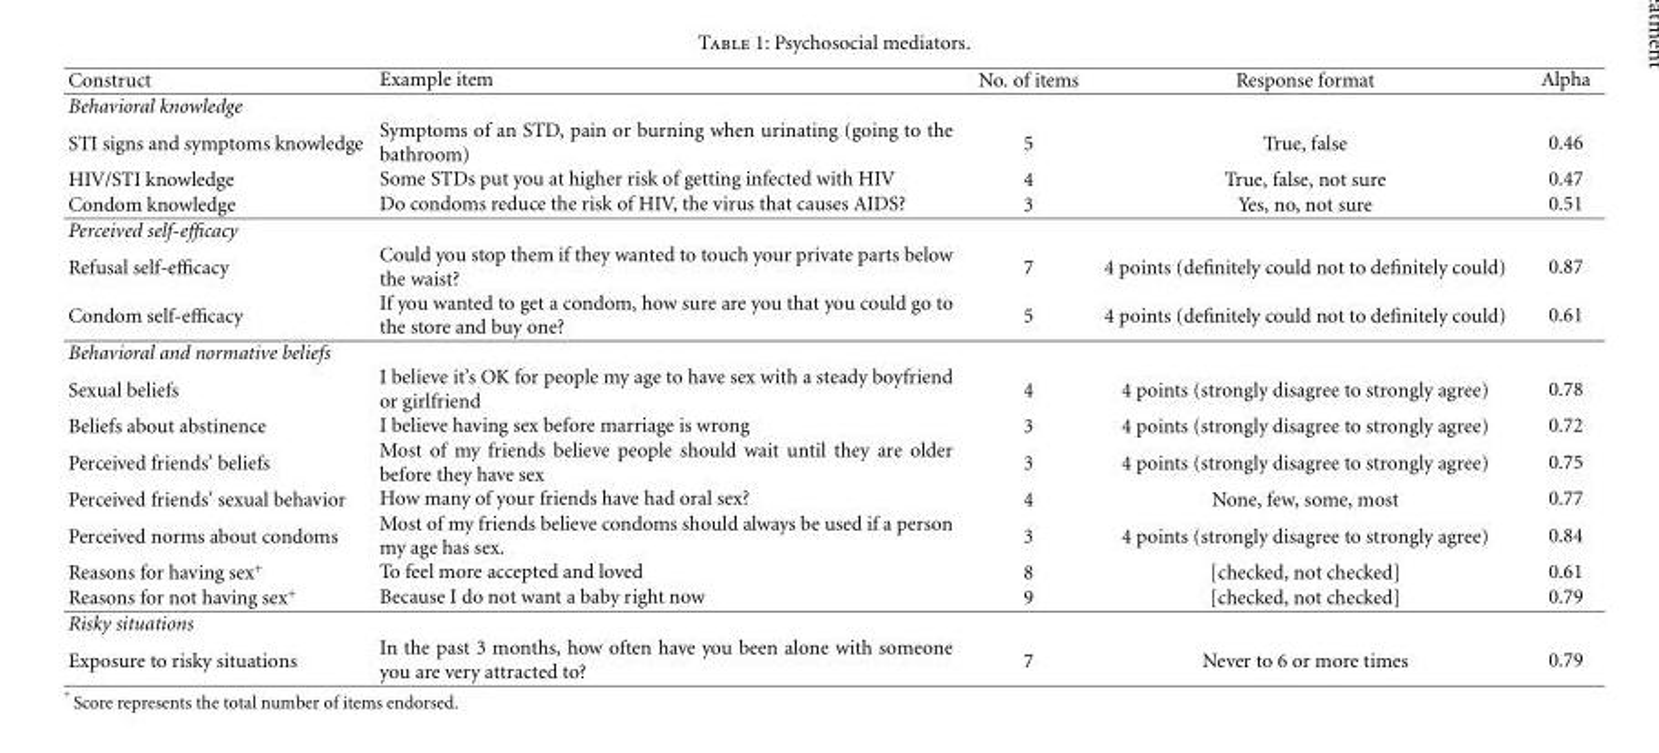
<table><thead><tr><td>Construct</td><td>Example item</td><td>No. of items</td><td>Response format</td><td>Alpha</td></tr></thead><tbody><tr><td colspan="5">Behavioral knowledge</td></tr><tr><td>STI signs and symptoms knowledge</td><td>Symptoms of an STD, pain or burning when urinating (going to the bathroom)</td><td>5</td><td>True, false</td><td>0.46</td></tr><tr><td>HIV/STI knowledge</td><td>Some STDs put you at higher risk of getting infected with HIV</td><td>4</td><td>True, false, not sure</td><td>0.47</td></tr><tr><td>Condom knowledge</td><td>Do condoms reduce the risk of HIV, the virus that causes AIDS?</td><td>3</td><td>Yes, no, not sure</td><td>0.51</td></tr><tr><td colspan="5">Perceived self-efficacy</td></tr><tr><td>Refusal self-efficacy</td><td>Could you stop them if they wanted to touch your private parts below the waist?</td><td>7</td><td>4 points (definitely could not to definitely could)</td><td>0.87</td></tr><tr><td>Condom self-efficacy</td><td>If you wanted to get a condom, how sure are you that you could go to the store and buy one?</td><td>5</td><td>4 points (definitely could not to definitely could)</td><td>0.61</td></tr><tr><td colspan="5">Behavioral and normative beliefs</td></tr><tr><td>Sexual beliefs</td><td>I believe it’s OK for people my age to have sex with a steady boyfriend or girlfriend</td><td>4</td><td>4 points (strongly disagree to strongly agree)</td><td>0.78</td></tr><tr><td>Beliefs about abstinence</td><td>I believe having sex before marriage is wrong</td><td>3</td><td>4 points (strongly disagree to strongly agree)</td><td>0.72</td></tr><tr><td>Perceived friends’ beliefs</td><td>Most of my friends believe people should wait until they are older before they have sex</td><td>3</td><td>4 points (strongly disagree to strongly agree)</td><td>0.75</td></tr><tr><td>Perceived friends’ sexual behavior</td><td>How many of your friends have had oral sex?</td><td>4</td><td>None, few, some, most</td><td>0.77</td></tr><tr><td>Perceived norms about condoms</td><td>Most of my friends believe condoms should always be used if a person my age has sex.</td><td>3</td><td>4 points (strongly disagree to strongly agree)</td><td>0.84</td></tr><tr><td>Reasons for having sex<sup>+</sup></td><td>To feel more accepted and loved</td><td>8</td><td>[checked, not checked]</td><td>0.61</td></tr><tr><td>Reasons for not having sex<sup>+</sup></td><td>Because I do not want a baby right now</td><td>9</td><td>[checked, not checked]</td><td>0.79</td></tr><tr><td colspan="5">Risky situations</td></tr><tr><td>Exposure to risky situations</td><td>In the past 3 months, how often have you been alone with someone you are very attracted to?</td><td>7</td><td>Never to 6 or more times</td><td>0.79</td></tr></tbody></table>